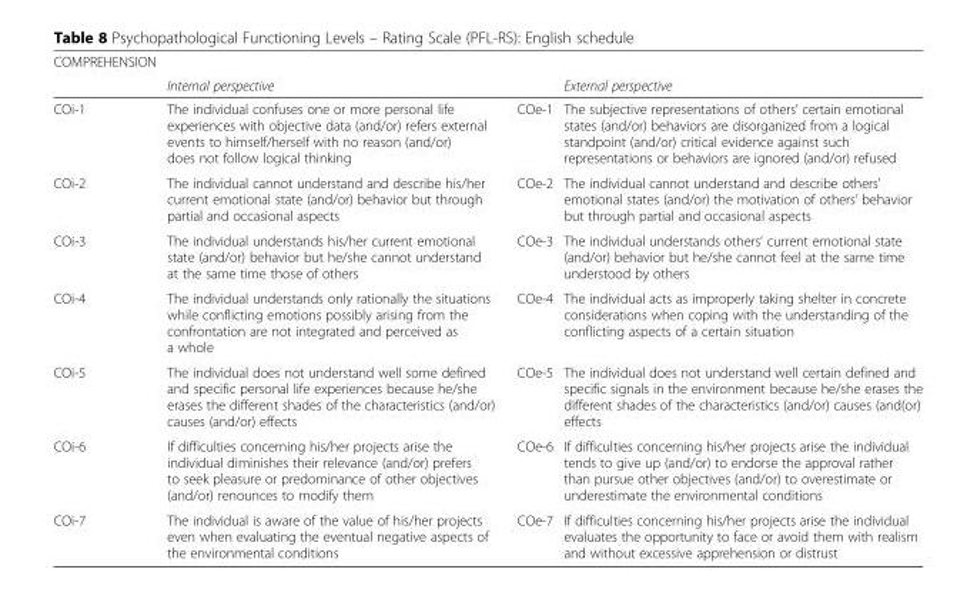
<table><thead><tr><td rowspan="2">COMPREHENSION</td><td rowspan="2">Internal perspective</td><td rowspan="2"></td><td rowspan="2">External perspective</td></tr><tr></tr></thead><tbody><tr><td>COi-1</td><td>The individual confuses one or more personal life experiences with objective data (and/or) refers external events to himself/herself with no reason (and/or) does not follow logical thinking</td><td>COe-1</td><td>The subjective representations of others’ certain emotional states (and/or) behaviors are disorganized from a logical standpoint (and/or) critical evidence against such representations or behaviors are ignored (and/or) refused</td></tr><tr><td>COi-2</td><td>The individual cannot understand and describe his/her current emotional state (and/or) behavior but through partial and occasional aspects</td><td>COe-2</td><td>The individual cannot understand and describe others’ emotional states (and/or) the motivation of others’ behavior but through partial and occasional aspects</td></tr><tr><td>COi-3</td><td>The individual understands his/her current emotional state (and/or) behavior but he/she cannot understand at the same time those of others</td><td>COe-3</td><td>The individual understands others’ current emotional state (and/or) behavior but he/she cannot feel at the same time understood by others</td></tr><tr><td>COi-4</td><td>The individual understands only rationally the situations while conflicting emotions possibly arising from the confrontation are not integrated and perceived as a whole</td><td>COe-4</td><td>The individual acts as improperly taking shelter in concrete considerations when coping with the understanding of the conflicting aspects of a certain situation</td></tr><tr><td>COi-5</td><td>The individual does not understand well some defined and specific personal life experiences because he/she erases the different shades of the characteristics (and/or) causes (and/or) effects</td><td>COe-5</td><td>The individual does not understand well certain defined and specific signals in the environment because he/she erases the different shades of the characteristics (and/or) causes (and(or) effects</td></tr><tr><td>COi-6</td><td>If difficulties concerning his/her projects arise the individual diminishes their relevance (and/or) prefers to seek pleasure or predominance of other objectives (and/or) renounces to modify them</td><td>COe-6</td><td>If difficulties concerning his/her projects arise the individual tends to give up (and/or) to endorse the approval rather than pursue other objectives (and/or) to overestimate or underestimate the environmental conditions</td></tr><tr><td>COi-7</td><td>The individual is aware of the value of his/her projects even when evaluating the eventual negative aspects of the environmental conditions</td><td>COe-7</td><td>If difficulties concerning his/her projects arise the individual evaluates the opportunity to face or avoid them with realism and without excessive apprehension or distrust</td></tr></tbody></table>